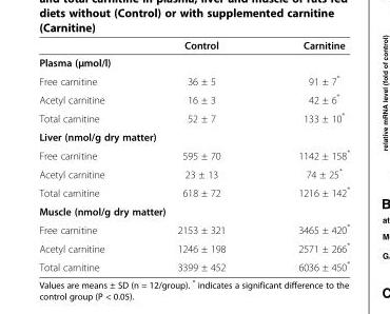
<table><thead><tr><td></td><td>Control</td><td>Carnitine</td></tr></thead><tbody><tr><td colspan="3">Plasma (μmol/l)</td></tr><tr><td>Free carnitine</td><td>36 ± 5</td><td>91 ± 7*</td></tr><tr><td>Acetyl carnitine</td><td>16 ± 3</td><td>42 ± 6*</td></tr><tr><td>Total carnitine</td><td>52 ± 7</td><td>133 ± 10*</td></tr><tr><td colspan="3">Liver (nmol/g dry matter)</td></tr><tr><td>Free carnitine</td><td>595 ± 70</td><td>1142 ± 158*</td></tr><tr><td>Acetyl carnitine</td><td>23 ± 13</td><td>74 ± 25*</td></tr><tr><td>Total carnitine</td><td>618 ± 72</td><td>1216 ± 142*</td></tr><tr><td colspan="3">Muscle (nmol/g dry matter)</td></tr><tr><td>Free carnitine</td><td>2153 ± 321</td><td>3465 ± 420*</td></tr><tr><td>Acetyl carnitine</td><td>1246 ± 198</td><td>2571 ± 266*</td></tr><tr><td>Total carnitine</td><td>3399 ± 452</td><td>6036 ± 450*</td></tr></tbody></table>